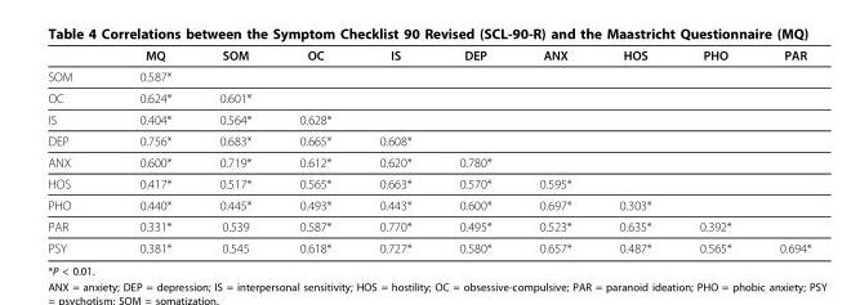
<table><thead><tr><td></td><td>MQ</td><td>SOM</td><td>OC</td><td>IS</td><td>DEP</td><td>ANX</td><td>HOS</td><td>PHO</td><td>PAR</td></tr></thead><tbody><tr><td>SOM</td><td>0.587*</td><td></td><td></td><td></td><td></td><td></td><td></td><td></td><td></td></tr><tr><td>OC</td><td>0.624*</td><td>0.601*</td><td></td><td></td><td></td><td></td><td></td><td></td><td></td></tr><tr><td>IS</td><td>0.404*</td><td>0.564*</td><td>0.628*</td><td></td><td></td><td></td><td></td><td></td><td></td></tr><tr><td>DEP</td><td>0.756*</td><td>0.683*</td><td>0.665*</td><td>0.608*</td><td></td><td></td><td></td><td></td><td></td></tr><tr><td>ANX</td><td>0.600*</td><td>0.719*</td><td>0.612*</td><td>0.620*</td><td>0.780*</td><td></td><td></td><td></td><td></td></tr><tr><td>HOS</td><td>0.417*</td><td>0.517*</td><td>0.565*</td><td>0.663*</td><td>0.570*</td><td>0.595*</td><td></td><td></td><td></td></tr><tr><td>PHO</td><td>0.440*</td><td>0.445*</td><td>0.493*</td><td>0.443*</td><td>0.600*</td><td>0.697*</td><td>0.303*</td><td></td><td></td></tr><tr><td>PAR</td><td>0.331*</td><td>0.539</td><td>0.587*</td><td>0.770*</td><td>0.495*</td><td>0.523*</td><td>0.635*</td><td>0.392*</td><td></td></tr><tr><td>PSY</td><td>0.381*</td><td>0.545</td><td>0.618*</td><td>0.727*</td><td>0.580*</td><td>0.657*</td><td>0.487*</td><td>0.565*</td><td>0.694*</td></tr></tbody></table>